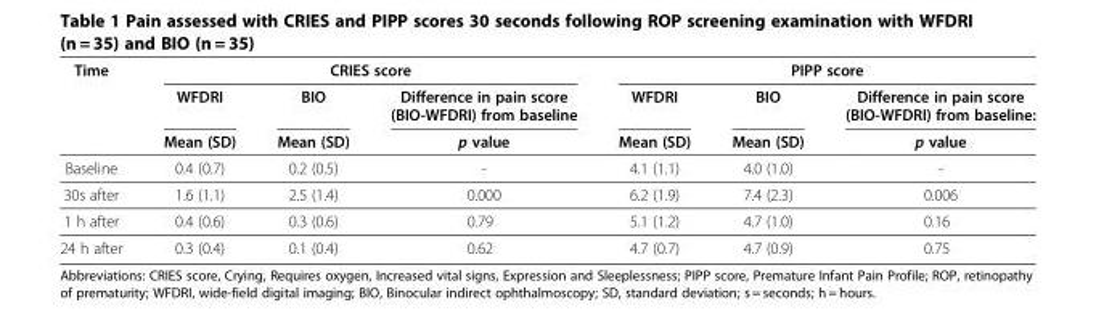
<table><thead><tr><td rowspan="3">Time</td><td colspan="3">CRIES score</td><td colspan="3">PIPP score</td></tr><tr><td rowspan="2">WFDRI Mean (SD)</td><td rowspan="2">BIO Mean (SD)</td><td rowspan="2">Difference in pain score (BIO-WFDRI) from baseline p value</td><td rowspan="2">WFDRI Mean (SD)</td><td rowspan="2">BIO Mean (SD)</td><td rowspan="2">Difference in pain score (BIO-WFDRI) from baseline: p value</td></tr><tr></tr></thead><tbody><tr><td>Baseline</td><td>0.4 (0.7)</td><td>0.2 (0.5)</td><td>-</td><td>4.1 (1.1)</td><td>4.0 (1.0)</td><td>-</td></tr><tr><td>30s after</td><td>1.6 (1.1)</td><td>2.5 (1.4)</td><td>0.000</td><td>6.2 (1.9)</td><td>7.4 (2.3)</td><td>0.006</td></tr><tr><td>1 h after</td><td>0.4 (0.6)</td><td>0.3 (0.6)</td><td>0.79</td><td>5.1 (1.2)</td><td>4.7 (1.0)</td><td>0.16</td></tr><tr><td>24 h after</td><td>0.3 (0.4)</td><td>0.1 (0.4)</td><td>0.62</td><td>4.7 (0.7)</td><td>4.7 (0.9)</td><td>0.75</td></tr></tbody></table>